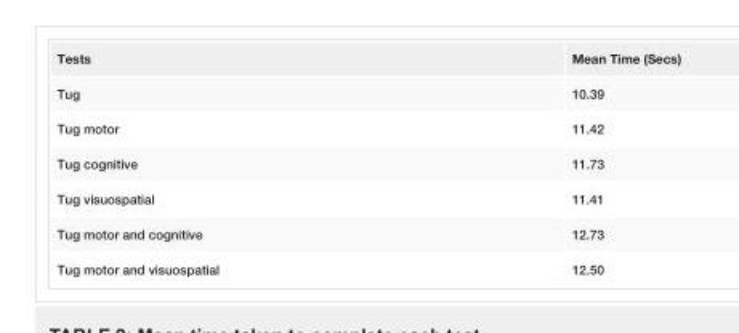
<table><tbody><tr><td>Tests</td><td>Mean Time (Secs)</td></tr><tr><td>Tug</td><td>10.39</td></tr><tr><td>Tug motor</td><td>11.42</td></tr><tr><td>Tug cognitive</td><td>11.73</td></tr><tr><td>Tug visuospatial</td><td>11.41</td></tr><tr><td>Tug motor and cognitive</td><td>12.73</td></tr><tr><td>Tug motor and visuospatial</td><td>12.50</td></tr></tbody></table>